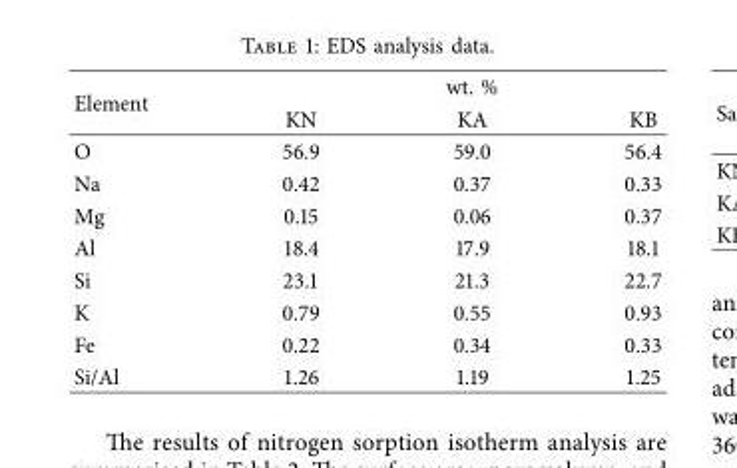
<table><thead><tr><td rowspan="2">Element</td><td colspan="3">wt. %</td></tr><tr><td>KN</td><td>KA</td><td>KB</td></tr></thead><tbody><tr><td>O</td><td>56.9</td><td>59.0</td><td>56.4</td></tr><tr><td>Na</td><td>0.42</td><td>0.37</td><td>0.33</td></tr><tr><td>Mg</td><td>0.15</td><td>0.06</td><td>0.37</td></tr><tr><td>Al</td><td>18.4</td><td>17.9</td><td>18.1</td></tr><tr><td>Si</td><td>23.1</td><td>21.3</td><td>22.7</td></tr><tr><td>K</td><td>0.79</td><td>0.55</td><td>0.93</td></tr><tr><td>Fe</td><td>0.22</td><td>0.34</td><td>0.33</td></tr><tr><td>Si/Al</td><td>1.26</td><td>1.19</td><td>1.25</td></tr></tbody></table>